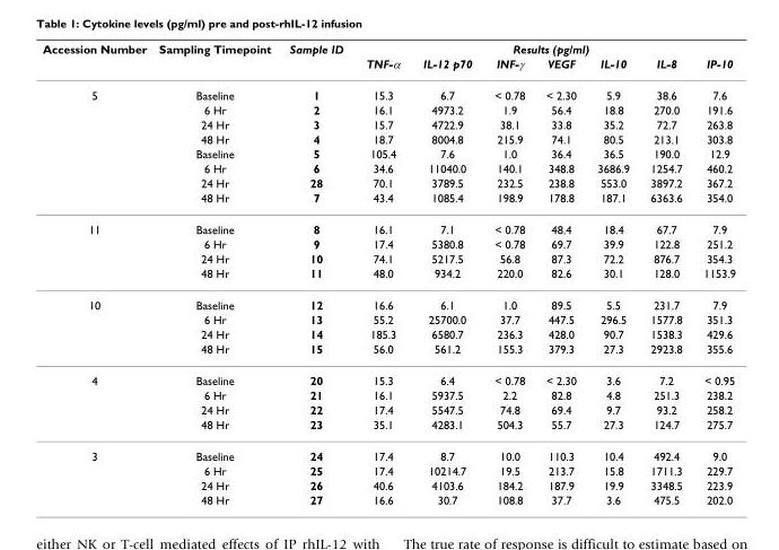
<table><thead><tr><td rowspan="2">Accession Number</td><td rowspan="2">Sampling Timepoint</td><td rowspan="2">Sample ID</td><td colspan="7">Results (pg/ml)</td></tr><tr><td>TNF-α</td><td>IL-12 p70</td><td>INF-γ</td><td>VEGF</td><td>IL-10</td><td>IL-8</td><td>IP-10</td></tr></thead><tbody><tr><td rowspan="8">5</td><td>Baseline</td><td>1</td><td>15.3</td><td>6.7</td><td>&lt; 0.78</td><td>&lt; 2.30</td><td>5.9</td><td>38.6</td><td>7.6</td></tr><tr><td>6 Hr</td><td>2</td><td>16.1</td><td>4973.2</td><td>1.9</td><td>56.4</td><td>18.8</td><td>270.0</td><td>191.6</td></tr><tr><td>24 Hr</td><td>3</td><td>15.7</td><td>4722.9</td><td>38.1</td><td>33.8</td><td>35.2</td><td>72.7</td><td>263.8</td></tr><tr><td>48 Hr</td><td>4</td><td>18.7</td><td>8004.8</td><td>215.9</td><td>74.1</td><td>80.5</td><td>213.1</td><td>303.8</td></tr><tr><td>Baseline</td><td>5</td><td>105.4</td><td>7.6</td><td>1.0</td><td>36.4</td><td>36.5</td><td>190.0</td><td>12.9</td></tr><tr><td>6 Hr</td><td>6</td><td>34.6</td><td>11040.0</td><td>140.1</td><td>348.8</td><td>3686.9</td><td>1254.7</td><td>460.2</td></tr><tr><td>24 Hr</td><td>28</td><td>70.1</td><td>3789.5</td><td>232.5</td><td>238.8</td><td>553.0</td><td>3897.2</td><td>367.2</td></tr><tr><td>48 Hr</td><td>7</td><td>43.4</td><td>1085.4</td><td>198.9</td><td>178.8</td><td>187.1</td><td>6363.6</td><td>354.0</td></tr><tr><td rowspan="4">11</td><td>Baseline</td><td>8</td><td>16.1</td><td>7.1</td><td>&lt; 0.78</td><td>48.4</td><td>18.4</td><td>67.7</td><td>7.9</td></tr><tr><td>6 Hr</td><td>9</td><td>17.4</td><td>5380.8</td><td>&lt; 0.78</td><td>69.7</td><td>39.9</td><td>122.8</td><td>251.2</td></tr><tr><td>24 Hr</td><td>10</td><td>74.1</td><td>5217.5</td><td>56.8</td><td>87.3</td><td>72.2</td><td>876.7</td><td>354.3</td></tr><tr><td>48 Hr</td><td>11</td><td>48.0</td><td>934.2</td><td>220.0</td><td>82.6</td><td>30.1</td><td>128.0</td><td>1153.9</td></tr><tr><td rowspan="4">10</td><td>Baseline</td><td>12</td><td>16.6</td><td>6.1</td><td>1.0</td><td>89.5</td><td>5.5</td><td>231.7</td><td>7.9</td></tr><tr><td>6 Hr</td><td>13</td><td>55.2</td><td>25700.0</td><td>37.7</td><td>447.5</td><td>296.5</td><td>1577.8</td><td>351.3</td></tr><tr><td>24 Hr</td><td>14</td><td>185.3</td><td>6580.7</td><td>236.3</td><td>428.0</td><td>90.7</td><td>1538.3</td><td>429.6</td></tr><tr><td>48 Hr</td><td>15</td><td>56.0</td><td>561.2</td><td>155.3</td><td>379.3</td><td>27.3</td><td>2923.8</td><td>355.6</td></tr><tr><td rowspan="4">4</td><td>Baseline</td><td>20</td><td>15.3</td><td>6.4</td><td>&lt; 0.78</td><td>&lt; 2.30</td><td>3.6</td><td>7.2</td><td>&lt; 0.95</td></tr><tr><td>6 Hr</td><td>21</td><td>16.1</td><td>5937.5</td><td>2.2</td><td>82.8</td><td>4.8</td><td>251.3</td><td>238.2</td></tr><tr><td>24 Hr</td><td>22</td><td>17.4</td><td>5547.5</td><td>74.8</td><td>69.4</td><td>9.7</td><td>93.2</td><td>258.2</td></tr><tr><td>48 Hr</td><td>23</td><td>35.1</td><td>4283.1</td><td>504.3</td><td>55.7</td><td>27.3</td><td>124.7</td><td>275.7</td></tr><tr><td rowspan="4">3</td><td>Baseline</td><td>24</td><td>17.4</td><td>8.7</td><td>10.0</td><td>110.3</td><td>10.4</td><td>492.4</td><td>9.0</td></tr><tr><td>6 Hr</td><td>25</td><td>17.4</td><td>10214.7</td><td>19.5</td><td>213.7</td><td>15.8</td><td>1711.3</td><td>229.7</td></tr><tr><td>24 Hr</td><td>26</td><td>40.6</td><td>4103.6</td><td>184.2</td><td>187.9</td><td>19.9</td><td>3348.5</td><td>223.9</td></tr><tr><td>48 Hr</td><td>27</td><td>16.6</td><td>30.7</td><td>108.8</td><td>37.7</td><td>3.6</td><td>475.5</td><td>202.0</td></tr></tbody></table>